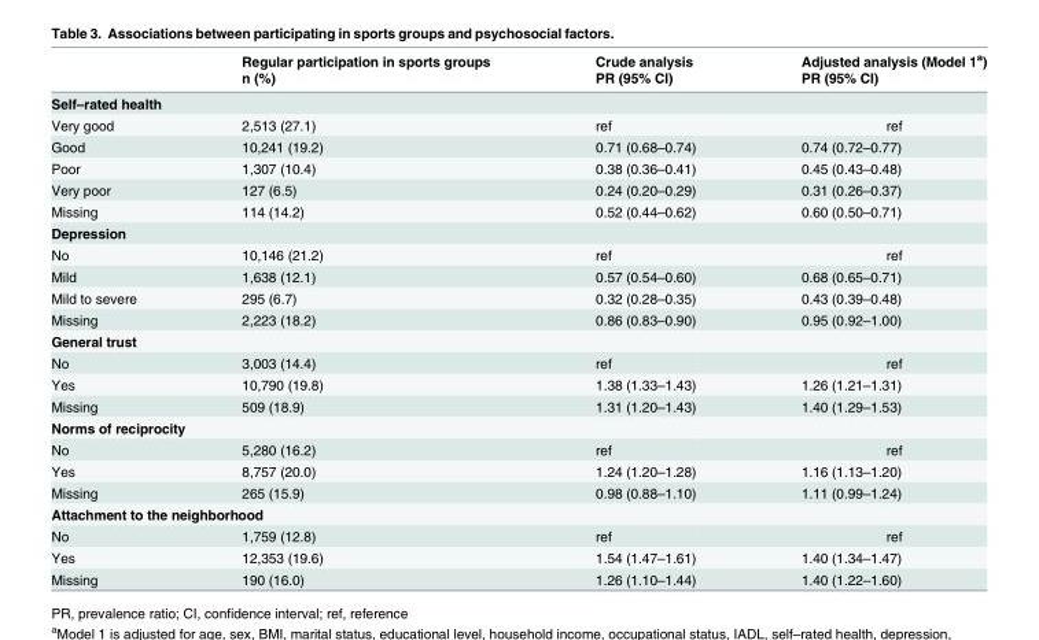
<table><thead><tr><td rowspan="2"></td><td rowspan="2">Regular participation in sports groups n (%)</td><td rowspan="2">Crude analysis PR (95% CI)</td><td rowspan="2">Adjusted analysis (Model 1<sup>a</sup>) PR (95% CI)</td></tr><tr></tr></thead><tbody><tr><td colspan="4">Self–rated health</td></tr><tr><td>Very good</td><td>2,513 (27.1)</td><td>ref</td><td>ref</td></tr><tr><td>Good</td><td>10,241 (19.2)</td><td>0.71 (0.68–0.74)</td><td>0.74 (0.72–0.77)</td></tr><tr><td>Poor</td><td>1,307 (10.4)</td><td>0.38 (0.36–0.41)</td><td>0.45 (0.43–0.48)</td></tr><tr><td>Very poor</td><td>127 (6.5)</td><td>0.24 (0.20–0.29)</td><td>0.31 (0.26–0.37)</td></tr><tr><td>Missing</td><td>114 (14.2)</td><td>0.52 (0.44–0.62)</td><td>0.60 (0.50–0.71)</td></tr><tr><td colspan="4">Depression</td></tr><tr><td>No</td><td>10,146 (21.2)</td><td>ref</td><td>ref</td></tr><tr><td>Mild</td><td>1,638 (12.1)</td><td>0.57 (0.54–0.60)</td><td>0.68 (0.65–0.71)</td></tr><tr><td>Mild to severe</td><td>295 (6.7)</td><td>0.32 (0.28–0.35)</td><td>0.43 (0.39–0.48)</td></tr><tr><td>Missing</td><td>2,223 (18.2)</td><td>0.86 (0.83–0.90)</td><td>0.95 (0.92–1.00)</td></tr><tr><td colspan="4">General trust</td></tr><tr><td>No</td><td>3,003 (14.4)</td><td>ref</td><td>ref</td></tr><tr><td>Yes</td><td>10,790 (19.8)</td><td>1.38 (1.33–1.43)</td><td>1.26 (1.21–1.31)</td></tr><tr><td>Missing</td><td>509 (18.9)</td><td>1.31 (1.20–1.43)</td><td>1.40 (1.29–1.53)</td></tr><tr><td colspan="4">Norms of reciprocity</td></tr><tr><td>No</td><td>5,280 (16.2)</td><td>ref</td><td>ref</td></tr><tr><td>Yes</td><td>8,757 (20.0)</td><td>1.24 (1.20–1.28)</td><td>1.16 (1.13–1.20)</td></tr><tr><td>Missing</td><td>265 (15.9)</td><td>0.98 (0.88–1.10)</td><td>1.11 (0.99–1.24)</td></tr><tr><td colspan="4">Attachment to the neighborhood</td></tr><tr><td>No</td><td>1,759 (12.8)</td><td>ref</td><td>ref</td></tr><tr><td>Yes</td><td>12,353 (19.6)</td><td>1.54 (1.47–1.61)</td><td>1.40 (1.34–1.47)</td></tr><tr><td>Missing</td><td>190 (16.0)</td><td>1.26 (1.10–1.44)</td><td>1.40 (1.22–1.60)</td></tr></tbody></table>